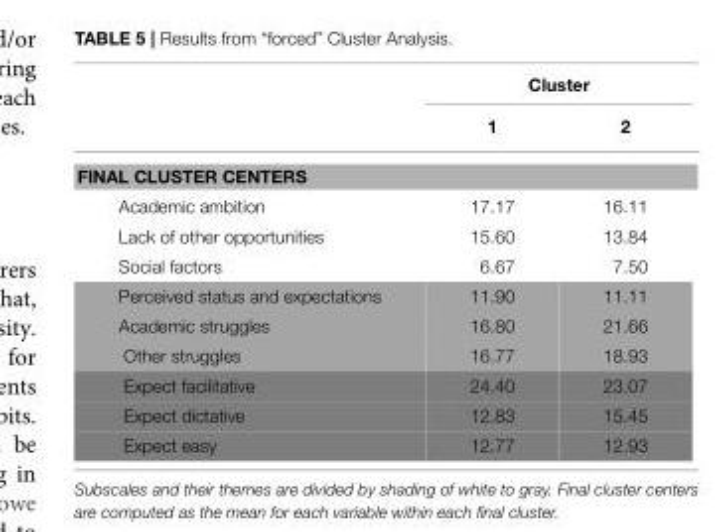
<table><thead><tr><td rowspan="2"></td><td colspan="2">Cluster</td></tr><tr><td>1</td><td>2</td></tr></thead><tbody><tr><td colspan="3">FINAL CLUSTER CENTERS</td></tr><tr><td>Academic ambition</td><td>17.17</td><td>16.11</td></tr><tr><td>Lack of other opportunities</td><td>15.60</td><td>13.84</td></tr><tr><td>Social factors</td><td>6.67</td><td>7.50</td></tr><tr><td>Perceived status and expectations</td><td>11.90</td><td>11.11</td></tr><tr><td>Academic struggles</td><td>16.80</td><td>21.66</td></tr><tr><td>Other struggles</td><td>16.77</td><td>18.93</td></tr><tr><td>Expect facilitative</td><td>24.40</td><td>23.07</td></tr><tr><td>Expect dictative</td><td>12.83</td><td>15.45</td></tr><tr><td>Expect easy</td><td>12.77</td><td>12.93</td></tr></tbody></table>